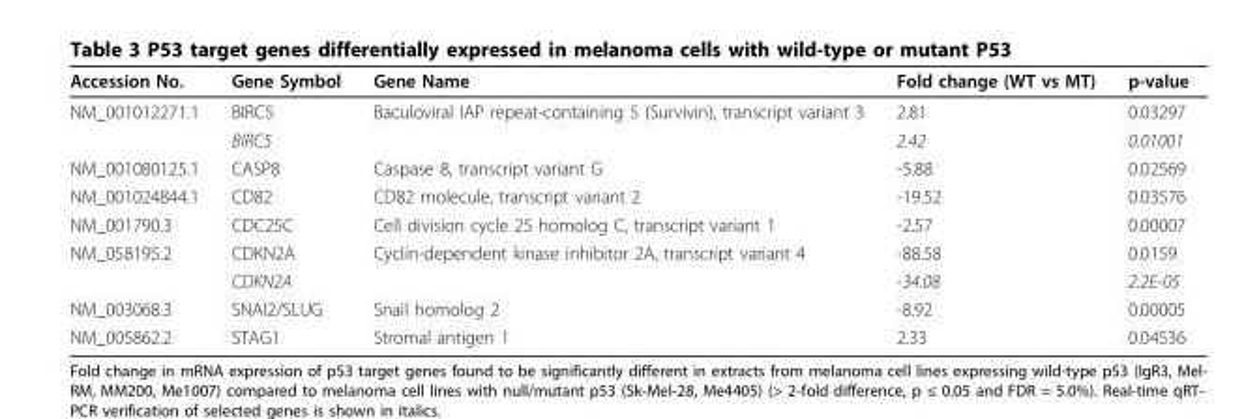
<table><thead><tr><td>Accession No.</td><td>Gene Symbol</td><td>Gene Name</td><td>Fold change (WT vs MT)</td><td>p-value</td></tr></thead><tbody><tr><td rowspan="2">NM_001012271.1</td><td>BIRC5</td><td>Baculoviral IAP repeat-containing 5 (Survivin), transcript variant 3</td><td>2.81</td><td>0.03297</td></tr><tr><td>BIRC5</td><td></td><td>2.42</td><td>0.01001</td></tr><tr><td>NM_001080125.1</td><td>CASP8</td><td>Caspase 8, transcript variant G</td><td>-5.88</td><td>0.02569</td></tr><tr><td>NM_001024844.1</td><td>CD82</td><td>CD82 molecule, transcript variant 2</td><td>-19.52</td><td>0.03576</td></tr><tr><td>NM_001790.3</td><td>CDC25C</td><td>Cell division cycle 25 homolog C, transcript variant 1</td><td>-2.57</td><td>0.00007</td></tr><tr><td rowspan="2">NM_058195.2</td><td>CDKN2A</td><td>Cyclin-dependent kinase inhibitor 2A, transcript variant 4</td><td>-88.58</td><td>0.0159</td></tr><tr><td>CDKN2A</td><td></td><td>-34.08</td><td>2.2E-05</td></tr><tr><td>NM_003068.3</td><td>SNAI2/SLUG</td><td>Snail homolog 2</td><td>-8.92</td><td>0.00005</td></tr><tr><td>NM_005862.2</td><td>STAG1</td><td>Stromal antigen 1</td><td>2.33</td><td>0.04536</td></tr></tbody></table>